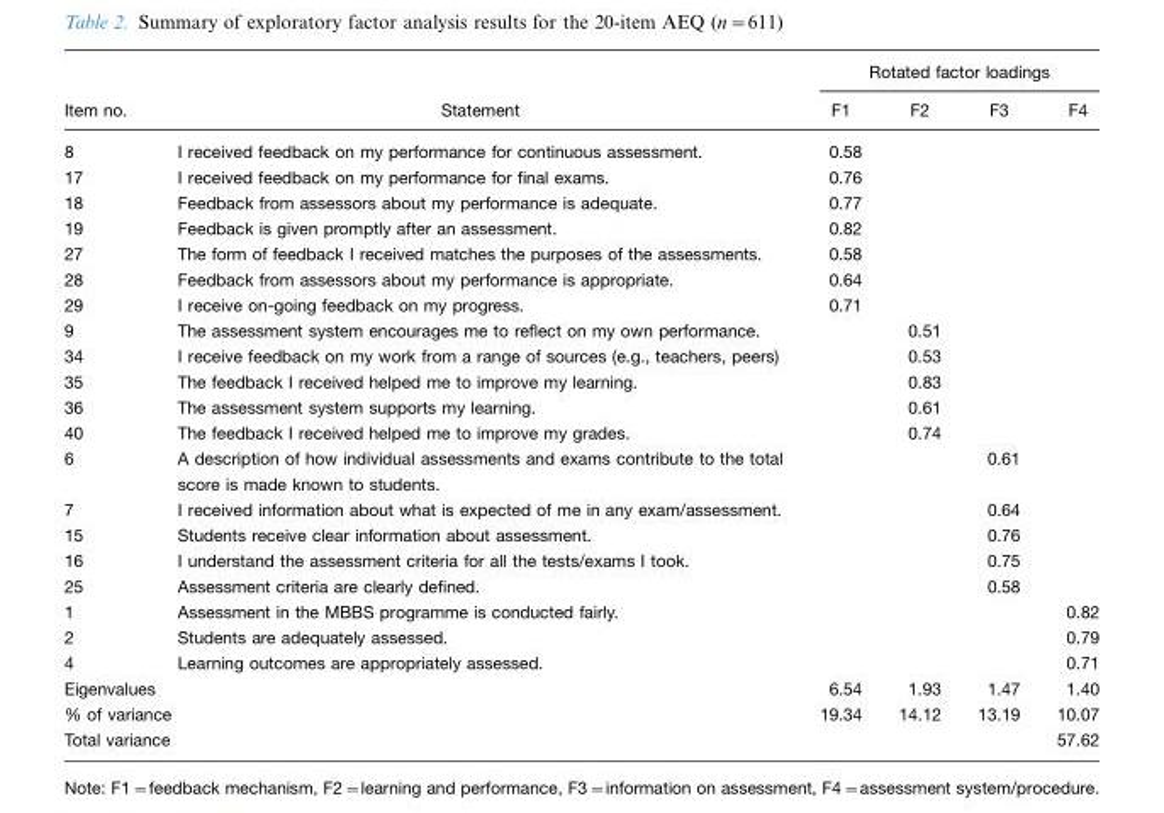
<table><thead><tr><td rowspan="2">Item no.</td><td rowspan="2">Statement</td><td colspan="4">Rotated factor loadings</td></tr><tr><td>F1</td><td>F2</td><td>F3</td><td>F4</td></tr></thead><tbody><tr><td>8</td><td>I received feedback on my performance for continuous assessment.</td><td>0.58</td><td></td><td></td><td></td></tr><tr><td>17</td><td>I received feedback on my performance for final exams.</td><td>0.76</td><td></td><td></td><td></td></tr><tr><td>18</td><td>Feedback from assessors about my performance is adequate.</td><td>0.77</td><td></td><td></td><td></td></tr><tr><td>19</td><td>Feedback is given promptly after an assessment.</td><td>0.82</td><td></td><td></td><td></td></tr><tr><td>27</td><td>The form of feedback I received matches the purposes of the assessments.</td><td>0.58</td><td></td><td></td><td></td></tr><tr><td>28</td><td>Feedback from assessors about my performance is appropriate.</td><td>0.64</td><td></td><td></td><td></td></tr><tr><td>29</td><td>I receive on-going feedback on my progress.</td><td>0.71</td><td></td><td></td><td></td></tr><tr><td>9</td><td>The assessment system encourages me to reflect on my own performance.</td><td></td><td>0.51</td><td></td><td></td></tr><tr><td>34</td><td>I receive feedback on my work from a range of sources (e.g., teachers, peers)</td><td></td><td>0.53</td><td></td><td></td></tr><tr><td>35</td><td>The feedback I received helped me to improve my learning.</td><td></td><td>0.83</td><td></td><td></td></tr><tr><td>36</td><td>The assessment system supports my learning.</td><td></td><td>0.61</td><td></td><td></td></tr><tr><td>40</td><td>The feedback I received helped me to improve my grades.</td><td></td><td>0.74</td><td></td><td></td></tr><tr><td>6</td><td>A description of how individual assessments and exams contribute to the total score is made known to students.</td><td></td><td></td><td>0.61</td><td></td></tr><tr><td>7</td><td>I received information about what is expected of me in any exam/assessment.</td><td></td><td></td><td>0.64</td><td></td></tr><tr><td>15</td><td>Students receive clear information about assessment.</td><td></td><td></td><td>0.76</td><td></td></tr><tr><td>16</td><td>I understand the assessment criteria for all the tests/exams I took.</td><td></td><td></td><td>0.75</td><td></td></tr><tr><td>25</td><td>Assessment criteria are clearly defined.</td><td></td><td></td><td>0.58</td><td></td></tr><tr><td>1</td><td>Assessment in the MBBS programme is conducted fairly.</td><td></td><td></td><td></td><td>0.82</td></tr><tr><td>2</td><td>Students are adequately assessed.</td><td></td><td></td><td></td><td>0.79</td></tr><tr><td>4</td><td>Learning outcomes are appropriately assessed.</td><td></td><td></td><td></td><td>0.71</td></tr><tr><td colspan="2">Eigenvalues</td><td>6.54</td><td>1.93</td><td>1.47</td><td>1.40</td></tr><tr><td colspan="2">% of variance</td><td>19.34</td><td>14.12</td><td>13.19</td><td>10.07</td></tr><tr><td colspan="2">Total variance</td><td></td><td></td><td></td><td>57.62</td></tr></tbody></table>